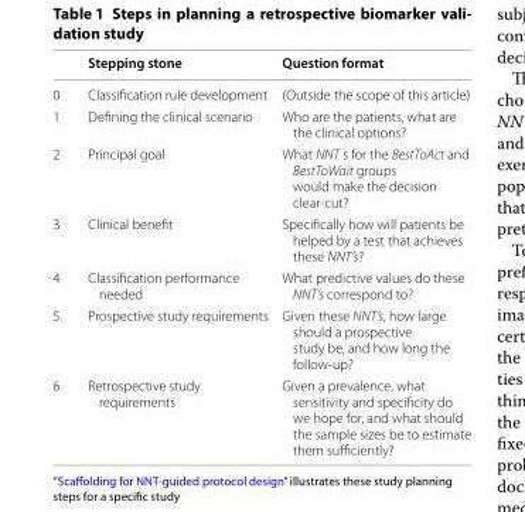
<table><thead><tr><td></td><td>Stepping stone</td><td>Question format</td></tr></thead><tbody><tr><td>0</td><td>Classification rule development</td><td>(Outside the scope of this article)</td></tr><tr><td>1</td><td>Defining the clinical scenario</td><td>Who are the patients, what are the clinical options?</td></tr><tr><td>2</td><td>Principal goal</td><td>What NNT s for the BestToAct and BestToWait groups would make the decision clear-cut?</td></tr><tr><td>3</td><td>Clinical benefit</td><td>Specifically how will patients be helped by a test that achieves these NNT’s?</td></tr><tr><td>4</td><td>Classification performance needed</td><td>What predictive values do these NNT’s correspond to?</td></tr><tr><td>5</td><td>Prospective study requirements</td><td>Given these NNT’s, how large should a prospective study be, and how long the follow-up?</td></tr><tr><td>6</td><td>Retrospective study requirements</td><td>Given a prevalence, what sensitivity and specificity do we hope for, and what should the sample sizes be to estimate them sufficiently?</td></tr></tbody></table>